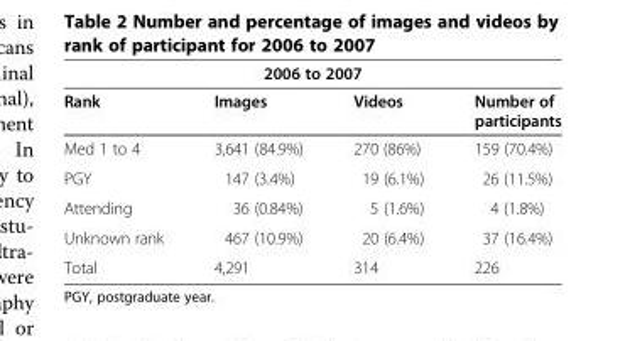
<table><thead><tr><td colspan="4">2006 to 2007</td></tr><tr><td>Rank</td><td>Images</td><td>Videos</td><td>Number of participants</td></tr></thead><tbody><tr><td>Med 1 to 4</td><td>3,641 (84.9%)</td><td>270 (86%)</td><td>159 (70.4%)</td></tr><tr><td>PGY</td><td>147 (3.4%)</td><td>19 (6.1%)</td><td>26 (11.5%)</td></tr><tr><td>Attending</td><td>36 (0.84%)</td><td>5 (1.6%)</td><td>4 (1.8%)</td></tr><tr><td>Unknown rank</td><td>467 (10.9%)</td><td>20 (6.4%)</td><td>37 (16.4%)</td></tr><tr><td>Total</td><td>4,291</td><td>314</td><td>226</td></tr></tbody></table>